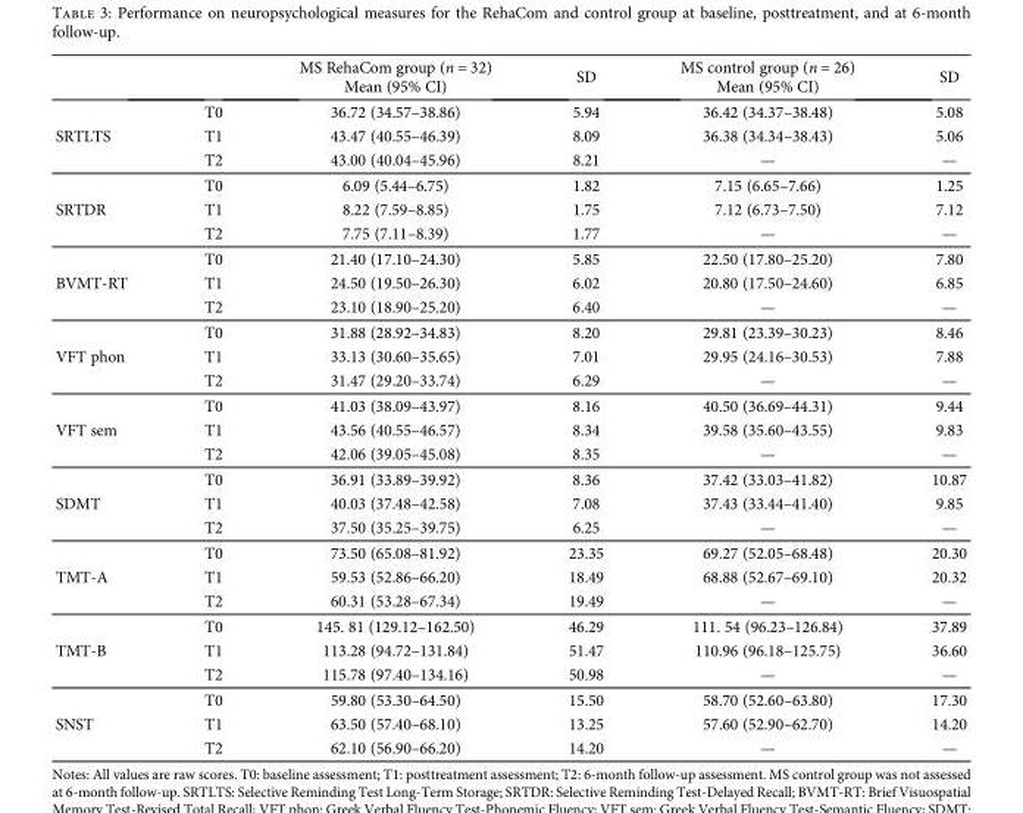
<table><thead><tr><td></td><td></td><td>MS RehaCom group (n = 32) Mean (95% CI)</td><td>SD</td><td>MS control group (n = 26) Mean (95% CI)</td><td>SD</td></tr></thead><tbody><tr><td rowspan="3">SRTLTS</td><td>T0</td><td>36.72 (34.57–38.86)</td><td>5.94</td><td>36.42 (34.37–38.48)</td><td>5.08</td></tr><tr><td>T1</td><td>43.47 (40.55–46.39)</td><td>8.09</td><td>36.38 (34.34–38.43)</td><td>5.06</td></tr><tr><td>T2</td><td>43.00 (40.04–45.96)</td><td>8.21</td><td>—</td><td>—</td></tr><tr><td rowspan="3">SRTDR</td><td>T0</td><td>6.09 (5.44–6.75)</td><td>1.82</td><td>7.15 (6.65–7.66)</td><td>1.25</td></tr><tr><td>T1</td><td>8.22 (7.59–8.85)</td><td>1.75</td><td>7.12 (6.73–7.50)</td><td>7.12</td></tr><tr><td>T2</td><td>7.75 (7.11–8.39)</td><td>1.77</td><td>—</td><td>—</td></tr><tr><td rowspan="3">BVMT-RT</td><td>T0</td><td>21.40 (17.10–24.30)</td><td>5.85</td><td>22.50 (17.80–25.20)</td><td>7.80</td></tr><tr><td>T1</td><td>24.50 (19.50–26.30)</td><td>6.02</td><td>20.80 (17.50–24.60)</td><td>6.85</td></tr><tr><td>T2</td><td>23.10 (18.90–25.20)</td><td>6.40</td><td>—</td><td>—</td></tr><tr><td rowspan="3">VFT phon</td><td>T0</td><td>31.88 (28.92–34.83)</td><td>8.20</td><td>29.81 (23.39–30.23)</td><td>8.46</td></tr><tr><td>T1</td><td>33.13 (30.60–35.65)</td><td>7.01</td><td>29.95 (24.16–30.53)</td><td>7.88</td></tr><tr><td>T2</td><td>31.47 (29.20–33.74)</td><td>6.29</td><td>—</td><td>—</td></tr><tr><td rowspan="3">VFT sem</td><td>T0</td><td>41.03 (38.09–43.97)</td><td>8.16</td><td>40.50 (36.69–44.31)</td><td>9.44</td></tr><tr><td>T1</td><td>43.56 (40.55–46.57)</td><td>8.34</td><td>39.58 (35.60–43.55)</td><td>9.83</td></tr><tr><td>T2</td><td>42.06 (39.05–45.08)</td><td>8.35</td><td>—</td><td>—</td></tr><tr><td rowspan="3">SDMT</td><td>T0</td><td>36.91 (33.89–39.92)</td><td>8.36</td><td>37.42 (33.03–41.82)</td><td>10.87</td></tr><tr><td>T1</td><td>40.03 (37.48–42.58)</td><td>7.08</td><td>37.43 (33.44–41.40)</td><td>9.85</td></tr><tr><td>T2</td><td>37.50 (35.25–39.75)</td><td>6.25</td><td>—</td><td>—</td></tr><tr><td rowspan="3">TMT-A</td><td>T0</td><td>73.50 (65.08–81.92)</td><td>23.35</td><td>69.27 (52.05–68.48)</td><td>20.30</td></tr><tr><td>T1</td><td>59.53 (52.86–66.20)</td><td>18.49</td><td>68.88 (52.67–69.10)</td><td>20.32</td></tr><tr><td>T2</td><td>60.31 (53.28–67.34)</td><td>19.49</td><td>—</td><td>—</td></tr><tr><td rowspan="3">TMT-B</td><td>T0</td><td>145. 81 (129.12–162.50)</td><td>46.29</td><td>111. 54 (96.23–126.84)</td><td>37.89</td></tr><tr><td>T1</td><td>113.28 (94.72–131.84)</td><td>51.47</td><td>110.96 (96.18–125.75)</td><td>36.60</td></tr><tr><td>T2</td><td>115.78 (97.40–134.16)</td><td>50.98</td><td>—</td><td>—</td></tr><tr><td rowspan="3">SNST</td><td>T0</td><td>59.80 (53.30–64.50)</td><td>15.50</td><td>58.70 (52.60–63.80)</td><td>17.30</td></tr><tr><td>T1</td><td>63.50 (57.40–68.10)</td><td>13.25</td><td>57.60 (52.90–62.70)</td><td>14.20</td></tr><tr><td>T2</td><td>62.10 (56.90–66.20)</td><td>14.20</td><td>—</td><td>—</td></tr></tbody></table>